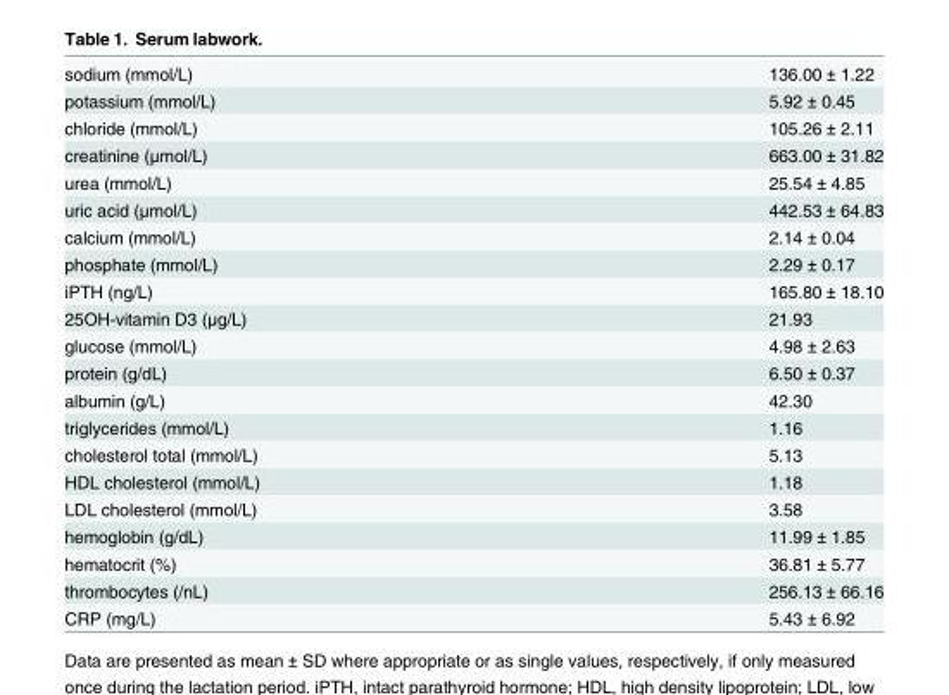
<table><tbody><tr><td>sodium (mmol/L)</td><td>136.00 ± 1.22</td></tr><tr><td>potassium (mmol/L)</td><td>5.92 ± 0.45</td></tr><tr><td>chloride (mmol/L)</td><td>105.26 ± 2.11</td></tr><tr><td>creatinine (μmol/L)</td><td>663.00 ± 31.82</td></tr><tr><td>urea (mmol/L)</td><td>25.54 ± 4.85</td></tr><tr><td>uric acid (μmol/L)</td><td>442.53 ± 64.83</td></tr><tr><td>calcium (mmol/L)</td><td>2.14 ± 0.04</td></tr><tr><td>phosphate (mmol/L)</td><td>2.29 ± 0.17</td></tr><tr><td>iPTH (ng/L)</td><td>165.80 ± 18.10</td></tr><tr><td>25OH-vitamin D3 (μg/L)</td><td>21.93</td></tr><tr><td>glucose (mmol/L)</td><td>4.98 ± 2.63</td></tr><tr><td>protein (g/dL)</td><td>6.50 ± 0.37</td></tr><tr><td>albumin (g/L)</td><td>42.30</td></tr><tr><td>triglycerides (mmol/L)</td><td>1.16</td></tr><tr><td>cholesterol total (mmol/L)</td><td>5.13</td></tr><tr><td>HDL cholesterol (mmol/L)</td><td>1.18</td></tr><tr><td>LDL cholesterol (mmol/L)</td><td>3.58</td></tr><tr><td>hemoglobin (g/dL)</td><td>11.99 ± 1.85</td></tr><tr><td>hematocrit (%)</td><td>36.81 ± 5.77</td></tr><tr><td>thrombocytes (/nL)</td><td>256.13 ± 66.16</td></tr><tr><td>CRP (mg/L)</td><td>5.43 ± 6.92</td></tr></tbody></table>